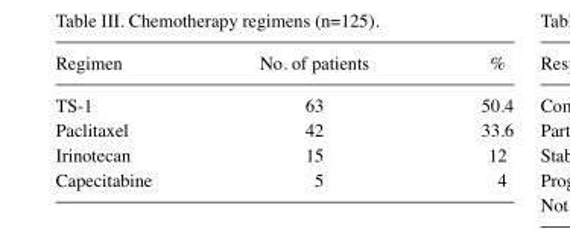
<table><thead><tr><td>Regimen</td><td>No. of patients</td><td>%</td></tr></thead><tbody><tr><td>TS-1</td><td>63</td><td>50.4</td></tr><tr><td>Paclitaxel</td><td>42</td><td>33.6</td></tr><tr><td>Irinotecan</td><td>15</td><td>12</td></tr><tr><td>Capecitabine</td><td>5</td><td>4</td></tr></tbody></table>